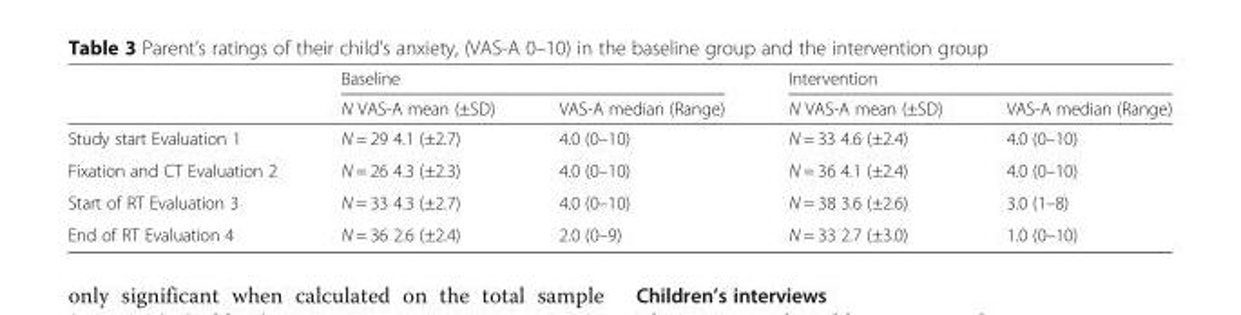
<table><thead><tr><td rowspan="2"></td><td colspan="2">Baseline</td><td colspan="2">Intervention</td></tr><tr><td>N VAS-A mean (±SD)</td><td>VAS-A median (Range)</td><td>N VAS-A mean (±SD)</td><td>VAS-A median (Range)</td></tr></thead><tbody><tr><td>Study start Evaluation 1</td><td>N = 29 4.1 (±2.7)</td><td>4.0 (0–10)</td><td>N = 33 4.6 (±2.4)</td><td>4.0 (0–10)</td></tr><tr><td>Fixation and CT Evaluation 2</td><td>N = 26 4.3 (±2.3)</td><td>4.0 (0–10)</td><td>N = 36 4.1 (±2.4)</td><td>4.0 (0–10)</td></tr><tr><td>Start of RT Evaluation 3</td><td>N = 33 4.3 (±2.7)</td><td>4.0 (0–10)</td><td>N = 38 3.6 (±2.6)</td><td>3.0 (1–8)</td></tr><tr><td>End of RT Evaluation 4</td><td>N = 36 2.6 (±2.4)</td><td>2.0 (0–9)</td><td>N = 33 2.7 (±3.0)</td><td>1.0 (0–10)</td></tr></tbody></table>